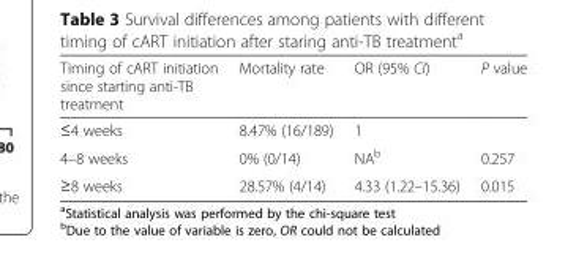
<table><thead><tr><td>Timing of cART initiation since starting anti-TB treatment</td><td>Mortality rate</td><td>OR (95% CI)</td><td>P value</td></tr></thead><tbody><tr><td>≤4 weeks</td><td>8.47% (16/189)</td><td>1</td><td></td></tr><tr><td>4–8 weeks</td><td>0% (0/14)</td><td>NA<sup>b</sup></td><td>0.257</td></tr><tr><td>≥8 weeks</td><td>28.57% (4/14)</td><td>4.33 (1.22–15.36)</td><td>0.015</td></tr></tbody></table>